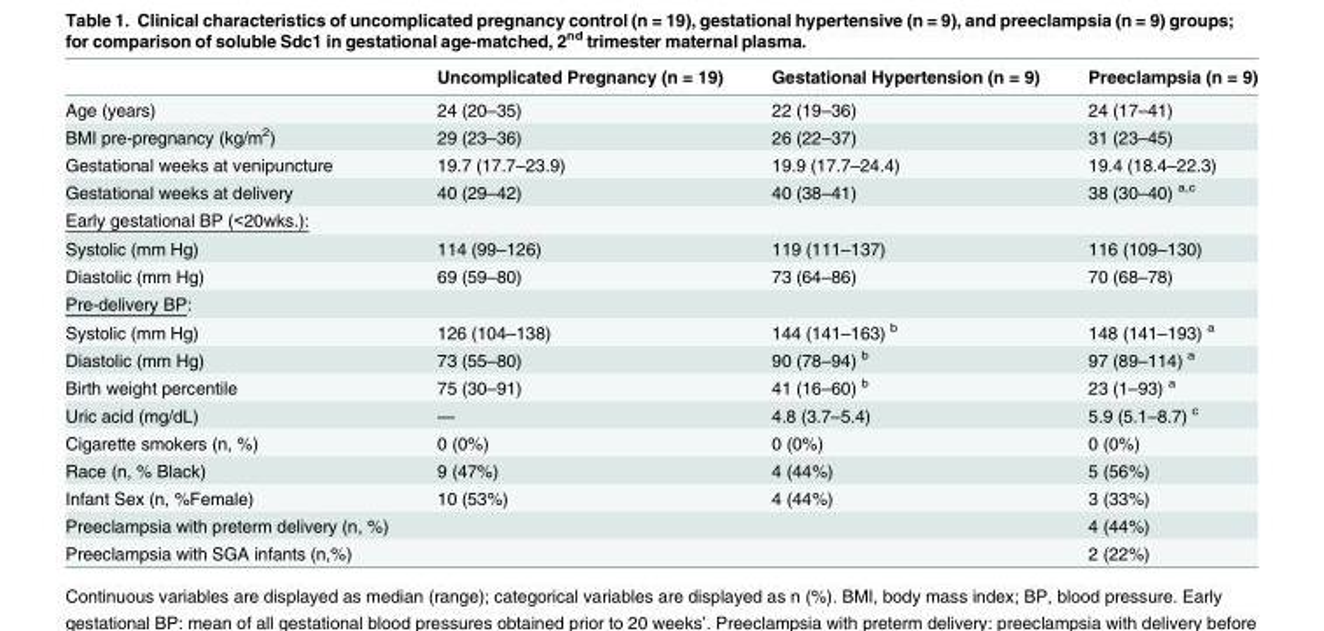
<table><thead><tr><td></td><td>Uncomplicated Pregnancy (n = 19)</td><td>Gestational Hypertension (n = 9)</td><td>Preeclampsia (n = 9)</td></tr></thead><tbody><tr><td>Age (years)</td><td>24 (20–35)</td><td>22 (19–36)</td><td>24 (17–41)</td></tr><tr><td>BMI pre-pregnancy (kg/m<sup>2</sup>)</td><td>29 (23–36)</td><td>26 (22–37)</td><td>31 (23–45)</td></tr><tr><td>Gestational weeks at venipuncture</td><td>19.7 (17.7–23.9)</td><td>19.9 (17.7–24.4)</td><td>19.4 (18.4–22.3)</td></tr><tr><td>Gestational weeks at delivery</td><td>40 (29–42)</td><td>40 (38–41)</td><td>38 (30–40) <sup>a,c</sup></td></tr><tr><td colspan="4">Early gestational BP (&lt;20wks.):</td></tr><tr><td>Systolic (mm Hg)</td><td>114 (99–126)</td><td>119 (111–137)</td><td>116 (109–130)</td></tr><tr><td>Diastolic (mm Hg)</td><td>69 (59–80)</td><td>73 (64–86)</td><td>70 (68–78)</td></tr><tr><td colspan="4">Pre-delivery BP:</td></tr><tr><td>Systolic (mm Hg)</td><td>126 (104–138)</td><td>144 (141–163) <sup>b</sup></td><td>148 (141–193) <sup>a</sup></td></tr><tr><td>Diastolic (mm Hg)</td><td>73 (55–80)</td><td>90 (78–94) <sup>b</sup></td><td>97 (89–114) <sup>a</sup></td></tr><tr><td>Birth weight percentile</td><td>75 (30–91)</td><td>41 (16–60) <sup>b</sup></td><td>23 (1–93) <sup>a</sup></td></tr><tr><td>Uric acid (mg/dL)</td><td>—</td><td>4.8 (3.7–5.4)</td><td>5.9 (5.1–8.7) <sup>c</sup></td></tr><tr><td>Cigarette smokers (n, %)</td><td>0 (0%)</td><td>0 (0%)</td><td>0 (0%)</td></tr><tr><td>Race (n, % Black)</td><td>9 (47%)</td><td>4 (44%)</td><td>5 (56%)</td></tr><tr><td>Infant Sex (n, %Female)</td><td>10 (53%)</td><td>4 (44%)</td><td>3 (33%)</td></tr><tr><td>Preeclampsia with preterm delivery (n, %)</td><td></td><td></td><td>4 (44%)</td></tr><tr><td>Preeclampsia with SGA infants (n,%)</td><td></td><td></td><td>2 (22%)</td></tr></tbody></table>